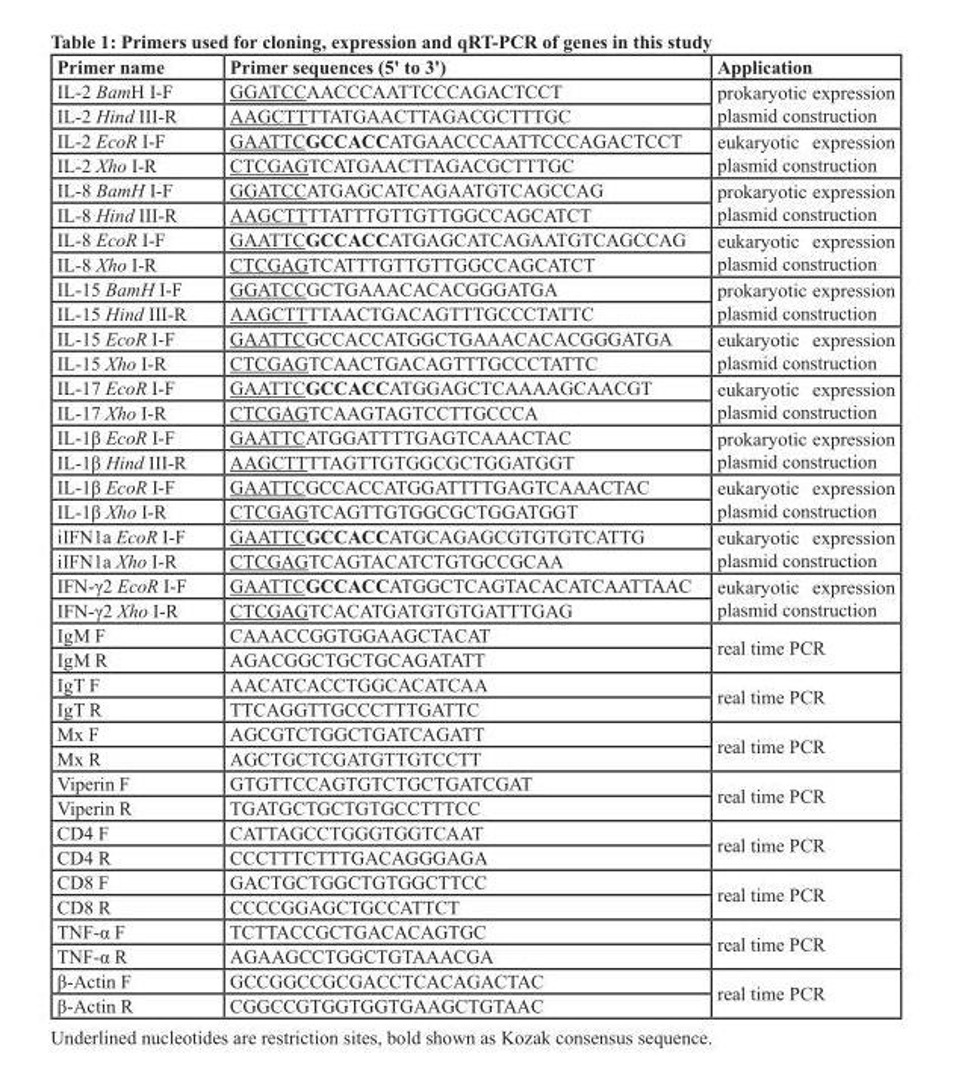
<table><thead><tr><td>Primer name</td><td>Primer sequences (5&#x27; to 3&#x27;)</td><td>Application</td></tr></thead><tbody><tr><td>IL-2 BamH I-F</td><td>GGATCCAACCCAATTCCCAGACTCCT</td><td rowspan="2">prokaryotic expression plasmid construction</td></tr><tr><td>IL-2 Hind III-R</td><td>AAGCTTTTATGAACTTAGACGCTTTGC</td></tr><tr><td>IL-2 EcoR I-F</td><td>GAATTCGCCACCATGAACCCAATTCCCAGACTCCT</td><td rowspan="2">eukaryotic expression plasmid construction</td></tr><tr><td>IL-2 Xho I-R</td><td>CTCGAGTCATGAACTTAGACGCTTTGC</td></tr><tr><td>IL-8 BamH I-F</td><td>GGATCCATGAGCATCAGAATGTCAGCCAG</td><td rowspan="2">prokaryotic expression plasmid construction</td></tr><tr><td>IL-8 Hind III-R</td><td>AAGCTTTTATTTGTTGTTGGCCAGCATCT</td></tr><tr><td>IL-8 EcoR I-F</td><td>GAATTCGCCACCATGAGCATCAGAATGTCAGCCAG</td><td rowspan="2">eukaryotic expression plasmid construction</td></tr><tr><td>IL-8 Xho I-R</td><td>CTCGAGTCATTTGTTGTTGGCCAGCATCT</td></tr><tr><td>IL-15 BamH I-F</td><td>GGATCCGCTGAAACACACGGGATGA</td><td rowspan="2">prokaryotic expression plasmid construction</td></tr><tr><td>IL-15 Hind III-R</td><td>AAGCTTTTAACTGACAGTTTGCCCTATTC</td></tr><tr><td>IL-15 EcoR I-F</td><td>GAATTCGCCACCATGGCTGAAACACACGGGATGA</td><td rowspan="2">eukaryotic expression plasmid construction</td></tr><tr><td>IL-15 Xho I-R</td><td>CTCGAGTCAACTGACAGTTTGCCCTATTC</td></tr><tr><td>IL-17 EcoR I-F</td><td>GAATTCGCCACCATGGAGCTCAAAAGCAACGT</td><td rowspan="2">eukaryotic expression plasmid construction</td></tr><tr><td>IL-17 Xho I-R</td><td>CTCGAGTCAAGTAGTCCTTGCCCA</td></tr><tr><td>IL-1β EcoR I-F</td><td>GAATTCATGGATTTTGAGTCAAACTAC</td><td rowspan="2">prokaryotic expression plasmid construction</td></tr><tr><td>IL-1β Hind III-R</td><td>AAGCTTTTAGTTGTGGCGCTGGATGGT</td></tr><tr><td>IL-1β EcoR I-F</td><td>GAATTCGCCACCATGGATTTTGAGTCAAACTAC</td><td rowspan="2">eukaryotic expression plasmid construction</td></tr><tr><td>IL-1β Xho I-R</td><td>CTCGAGTCAGTTGTGGCGCTGGATGGT</td></tr><tr><td>iIFN1a EcoR I-F</td><td>GAATTCGCCACCATGCAGAGCGTGTGTCATTG</td><td rowspan="2">eukaryotic expression plasmid construction</td></tr><tr><td>iIFN1a Xho I-R</td><td>CTCGAGTCAGTACATCTGTGCCGCAA</td></tr><tr><td>IFN-γ2 EcoR I-F</td><td>GAATTCGCCACCATGGCTCAGTACACATCAATTAAC</td><td rowspan="2">eukaryotic expression plasmid construction</td></tr><tr><td>IFN-γ2 Xho I-R</td><td>CTCGAGTCACATGATGTGTGATTTGAG</td></tr><tr><td>IgM F</td><td>CAAACCGGTGGAAGCTACAT</td><td rowspan="2">real time PCR</td></tr><tr><td>IgM R</td><td>AGACGGCTGCTGCAGATATT</td></tr><tr><td>IgT F</td><td>AACATCACCTGGCACATCAA</td><td rowspan="2">real time PCR</td></tr><tr><td>IgT R</td><td>TTCAGGTTGCCCTTTGATTC</td></tr><tr><td>Mx F</td><td>AGCGTCTGGCTGATCAGATT</td><td rowspan="2">real time PCR</td></tr><tr><td>Mx R</td><td>AGCTGCTCGATGTTGTCCTT</td></tr><tr><td>Viperin F</td><td>GTGTTCCAGTGTCTGCTGATCGAT</td><td rowspan="2">real time PCR</td></tr><tr><td>Viperin R</td><td>TGATGCTGCTGTGCCTTTCC</td></tr><tr><td>CD4 F</td><td>CATTAGCCTGGGTGGTCAAT</td><td rowspan="2">real time PCR</td></tr><tr><td>CD4 R</td><td>CCCTTTCTTTGACAGGGAGA</td></tr><tr><td>CD8 F</td><td>GACTGCTGGCTGTGGCTTCC</td><td rowspan="2">real time PCR</td></tr><tr><td>CD8 R</td><td>CCCCGGAGCTGCCATTCT</td></tr><tr><td>TNF-α F</td><td>TCTTACCGCTGACACAGTGC</td><td rowspan="2">real time PCR</td></tr><tr><td>TNF-α R</td><td>AGAAGCCTGGCTGTAAACGA</td></tr><tr><td>β-Actin F</td><td>GCCGGCCGCGACCTCACAGACTAC</td><td rowspan="2">real time PCR</td></tr><tr><td>β-Actin R</td><td>CGGCCGTGGTGGTGAAGCTGTAAC</td></tr></tbody></table>